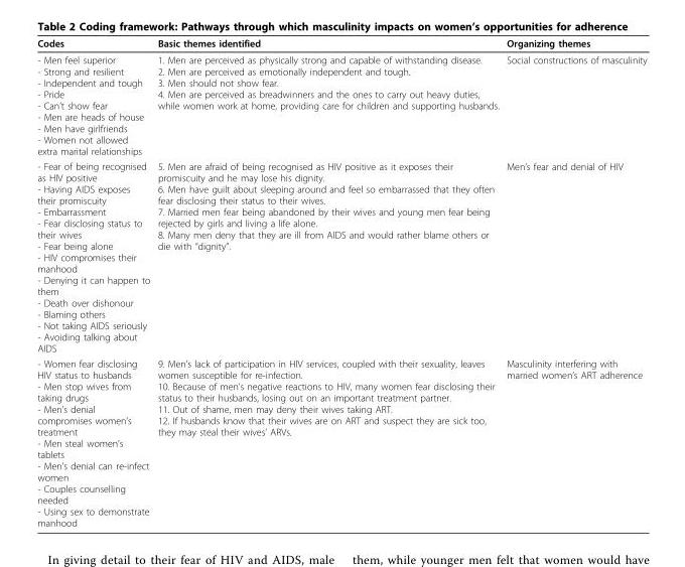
<table><thead><tr><td>Codes</td><td>Basic themes identified</td><td>Organizing themes</td></tr></thead><tbody><tr><td>- Men feel superior - Strong and resilient - Independent and tough - Pride - Can’t show fear - Men are heads of house - Men have girlfriends - Women not allowed extra marital relationships</td><td>1. Men are perceived as physically strong and capable of withstanding disease. 2. Men are perceived as emotionally independent and tough. 3. Men should not show fear. 4. Men are perceived as breadwinners and the ones to carry out heavy duties, while women work at home, providing care for children and supporting husbands.</td><td>Social constructions of masculinity</td></tr><tr><td>- Fear of being recognised as HIV positive - Having AIDS exposes their promiscuity - Embarrassment - Fear disclosing status to their wives - Fear being alone - HIV compromises their manhood - Denying it can happen to them - Death over dishonour - Blaming others - Not taking AIDS seriously - Avoiding talking about AIDS</td><td>5. Men are afraid of being recognised as HIV positive as it exposes their promiscuity and he may lose his dignity. 6. Men have guilt about sleeping around and feel so embarrassed that they often fear disclosing their status to their wives. 7. Married men fear being abandoned by their wives and young men fear being rejected by girls and living a life alone. 8. Many men deny that they are ill from AIDS and would rather blame others or die with “dignity”.</td><td>Men’s fear and denial of HIV</td></tr><tr><td>- Women fear disclosing HIV status to husbands - Men stop wives from taking drugs - Men’s denial compromises women’s treatment - Men steal women’s tablets - Men’s denial can re-infect women - Couples counselling needed - Using sex to demonstrate manhood</td><td>9. Men’s lack of participation in HIV services, coupled with their sexuality, leaves women susceptible for re-infection. 10. Because of men’s negative reactions to HIV, many women fear disclosing their status to their husbands, losing out on an important treatment partner. 11. Out of shame, men may deny their wives taking ART. 12. If husbands know that their wives are on ART and suspect they are sick too, they may steal their wives’ ARVs.</td><td>Masculinity interfering with married women’s ART adherence</td></tr></tbody></table>